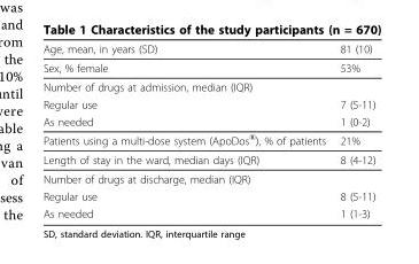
<table><thead><tr><td>Age, mean, in years (SD)</td><td>81 (10)</td></tr></thead><tbody><tr><td>Sex, % female</td><td>53%</td></tr><tr><td colspan="2">Number of drugs at admission, median (IQR)</td></tr><tr><td>Regular use</td><td>7 (5-11)</td></tr><tr><td>As needed</td><td>1 (0-2)</td></tr><tr><td>Patients using a multi-dose system (ApoDos<sup>®</sup>), % of patients</td><td>21%</td></tr><tr><td>Length of stay in the ward, median days (IQR)</td><td>8 (4-12)</td></tr><tr><td colspan="2">Number of drugs at discharge, median (IQR)</td></tr><tr><td>Regular use</td><td>8 (5-11)</td></tr><tr><td>As needed</td><td>1 (1-3)</td></tr></tbody></table>